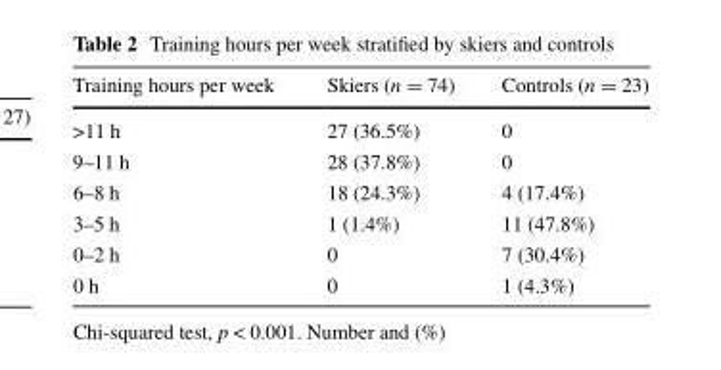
<table><thead><tr><td>Training hours per week</td><td>Skiers (n = 74)</td><td>Controls (n = 23)</td></tr></thead><tbody><tr><td>&gt;11 h</td><td>27 (36.5%)</td><td>0</td></tr><tr><td>9–11 h</td><td>28 (37.8%)</td><td>0</td></tr><tr><td>6–8 h</td><td>18 (24.3%)</td><td>4 (17.4%)</td></tr><tr><td>3–5 h</td><td>1 (1.4%)</td><td>11 (47.8%)</td></tr><tr><td>0–2 h</td><td>0</td><td>7 (30.4%)</td></tr><tr><td>0 h</td><td>0</td><td>1 (4.3%)</td></tr></tbody></table>